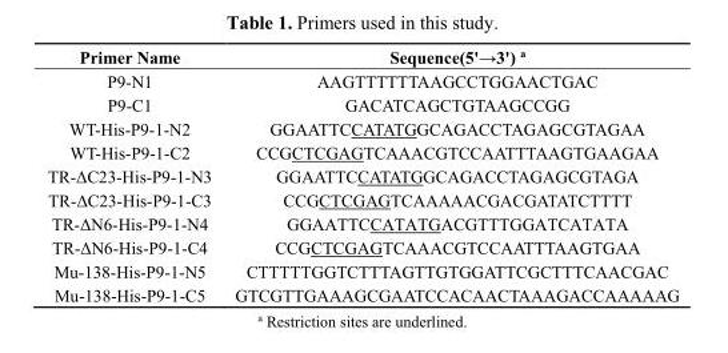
<table><thead><tr><td>Primer Name</td><td>Sequence(5&#x27;→3&#x27;) <sup>a</sup></td></tr></thead><tbody><tr><td>P9-N1</td><td>AAGTTTTTTAAGCCTGGAACTGAC</td></tr><tr><td>P9-C1</td><td>GACATCAGCTGTAAGCCGG</td></tr><tr><td>WT-His-P9-1-N2</td><td>GGAATTCCATATGGCAGACCTAGAGCGTAGAA</td></tr><tr><td>WT-His-P9-1-C2</td><td>CCGCTCGAGTCAAACGTCCAATTTAAGTGAAGAA</td></tr><tr><td>TR-ΔC23-His-P9-1-N3</td><td>GGAATTCCATATGGCAGACCTAGAGCGTAGA</td></tr><tr><td>TR-ΔC23-His-P9-1-C3</td><td>CCGCTCGAGTCAAAAACGACGATATCTTTT</td></tr><tr><td>TR-ΔN6-His-P9-1-N4</td><td>GGAATTCCATATGACGTTTGGATCATATA</td></tr><tr><td>TR-ΔN6-His-P9-1-C4</td><td>CCGCTCGAGTCAAACGTCCAATTTAAGTGAA</td></tr><tr><td>Mu-138-His-P9-1-N5</td><td>CTTTTTGGTCTTTAGTTGTGGATTCGCTTTCAACGAC</td></tr><tr><td>Mu-138-His-P9-1-C5</td><td>GTCGTTGAAAGCGAATCCACAACTAAAGACCAAAAAG</td></tr></tbody></table>